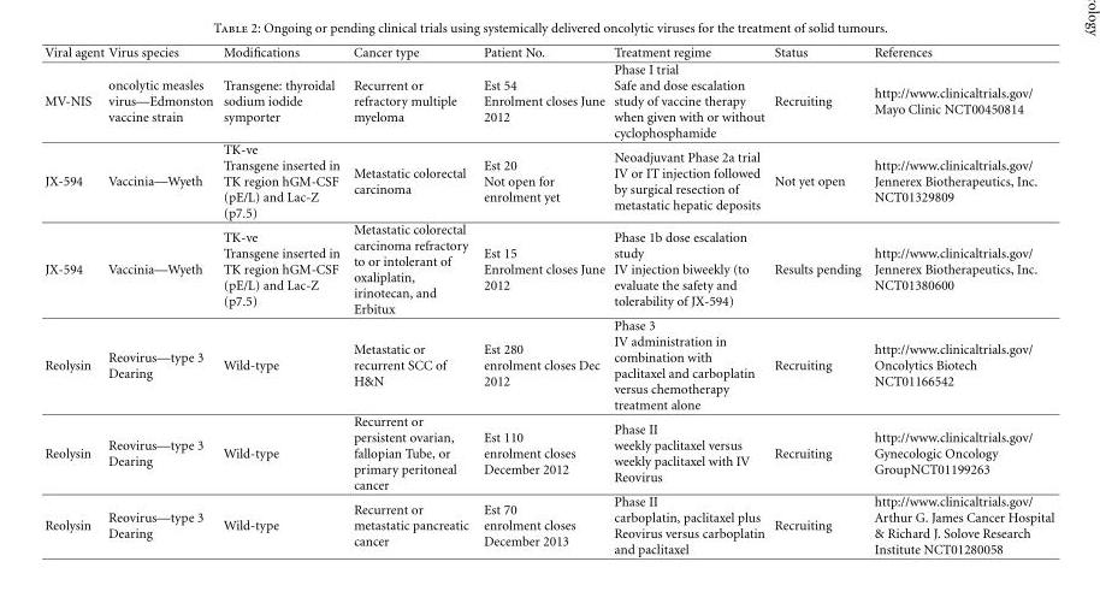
<table><thead><tr><td>Viral agent</td><td>Virus species</td><td>Modifications</td><td>Cancer type</td><td>Patient No.</td><td>Treatment regime</td><td>Status</td><td>References</td></tr></thead><tbody><tr><td>MV-NIS</td><td>oncolytic measles virus—Edmonston vaccine strain</td><td>Transgene: thyroidal sodium iodide symporter</td><td>Recurrent or refractory multiple myeloma</td><td>Est 54 Enrolment closes June 2012</td><td>Phase I trial Safe and dose escalation study of vaccine therapy when given with or without cyclophosphamide</td><td>Recruiting</td><td>http://www.clinicaltrials.gov/ Mayo Clinic NCT00450814</td></tr><tr><td>JX-594</td><td>Vaccinia—Wyeth</td><td>TK-ve Transgene inserted in TK region hGM-CSF (pE/L) and Lac-Z (p7.5)</td><td>Metastatic colorectal carcinoma</td><td>Est 20 Not open for enrolment yet</td><td>Neoadjuvant Phase 2a trial IV or IT injection followed by surgical resection of metastatic hepatic deposits</td><td>Not yet open</td><td>http://www.clinicaltrials.gov/ Jennerex Biotherapeutics, Inc. NCT01329809</td></tr><tr><td>JX-594</td><td>Vaccinia—Wyeth</td><td>TK-ve Transgene inserted in TK region hGM-CSF (pE/L) and Lac-Z (p7.5)</td><td>Metastatic colorectal carcinoma refractory to or intolerant of oxaliplatin, irinotecan, and Erbitux</td><td>Est 15 Enrolment closes June 2012</td><td>Phase 1b dose escalation study IV injection biweekly (to evaluate the safety and tolerability of JX-594)</td><td>Results pending</td><td>http://www.clinicaltrials.gov/ Jennerex Biotherapeutics, Inc. NCT01380600</td></tr><tr><td>Reolysin</td><td>Reovirus—type 3 Dearing</td><td>Wild-type</td><td>Metastatic or recurrent SCC of H&amp;N</td><td>Est 280 enrolment closes Dec 2012</td><td>Phase 3 IV administration in combination with paclitaxel and carboplatin versus chemotherapy treatment alone</td><td>Recruiting</td><td>http://www.clinicaltrials.gov/ Oncolytics Biotech NCT01166542</td></tr><tr><td>Reolysin</td><td>Reovirus—type 3 Dearing</td><td>Wild-type</td><td>Recurrent or persistent ovarian, fallopian Tube, or primary peritoneal cancer</td><td>Est 110 enrolment closes December 2012</td><td>Phase II weekly paclitaxel versus weekly paclitaxel with IV Reovirus</td><td>Recruiting</td><td>http://www.clinicaltrials.gov/ Gynecologic Oncology GroupNCT01199263</td></tr><tr><td>Reolysin</td><td>Reovirus—type 3 Dearing</td><td>Wild-type</td><td>Recurrent or metastatic pancreatic cancer</td><td>Est 70 enrolment closes December 2013</td><td>Phase II carboplatin, paclitaxel plus Reovirus versus carboplatin and paclitaxel</td><td>Recruiting</td><td>http://www.clinicaltrials.gov/ Arthur G. James Cancer Hospital &amp; Richard J. Solove Research Institute NCT01280058</td></tr></tbody></table>